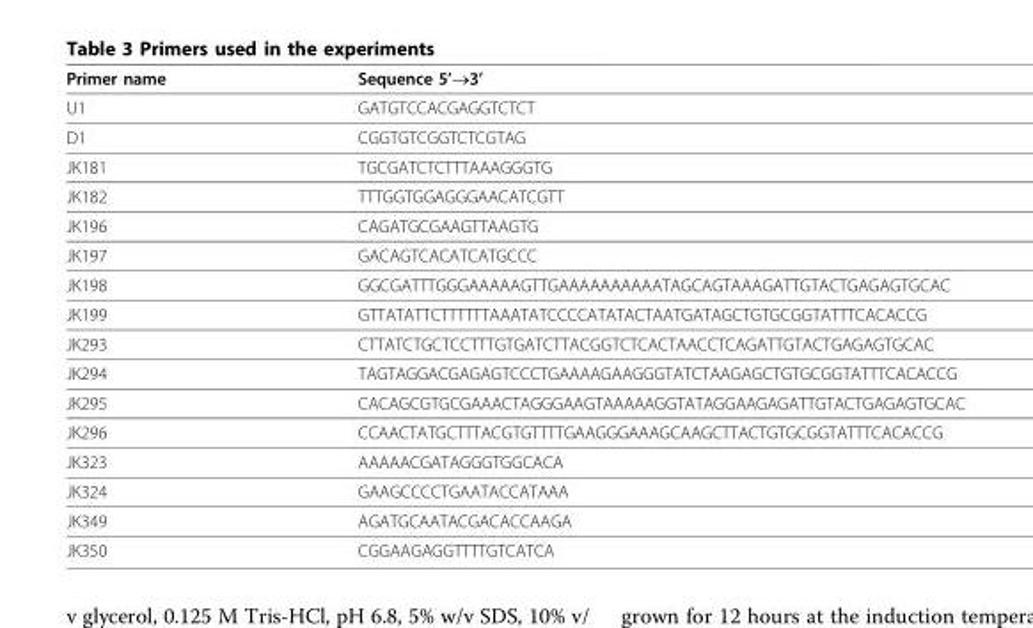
<table><thead><tr><td>Primer name</td><td>Sequence 5’→3’</td></tr></thead><tbody><tr><td>U1</td><td>GATGTCCACGAGGTCTCT</td></tr><tr><td>D1</td><td>CGGTGTCGGTCTCGTAG</td></tr><tr><td>JK181</td><td>TGCGATCTCTTTAAAGGGTG</td></tr><tr><td>JK182</td><td>TTTGGTGGAGGGAACATCGTT</td></tr><tr><td>JK196</td><td>CAGATGCGAAGTTAAGTG</td></tr><tr><td>JK197</td><td>GACAGTCACATCATGCCC</td></tr><tr><td>JK198</td><td>GGCGATTTGGGAAAAAGTTGAAAAAAAAAATAGCAGTAAAGATTGTACTGAGAGTGCAC</td></tr><tr><td>JK199</td><td>GTTATATTCTTTTTTAAATATCCCCATATACTAATGATAGCTGTGCGGTATTTCACACCG</td></tr><tr><td>JK293</td><td>CTTATCTGCTCCTTTGTGATCTTACGGTCTCACTAACCTCAGATTGTACTGAGAGTGCAC</td></tr><tr><td>JK294</td><td>TAGTAGGACGAGAGTCCCTGAAAAGAAGGGTATCTAAGAGCTGTGCGGTATTTCACACCG</td></tr><tr><td>JK295</td><td>CACAGCGTGCGAAACTAGGGAAGTAAAAAGGTATAGGAAGAGATTGTACTGAGAGTGCAC</td></tr><tr><td>JK296</td><td>CCAACTATGCTTTACGTGTTTTGAAGGGAAAGCAAGCTTACTGTGCGGTATTTCACACCG</td></tr><tr><td>JK323</td><td>AAAAACGATAGGGTGGCACA</td></tr><tr><td>JK324</td><td>GAAGCCCCTGAATACCATAAA</td></tr><tr><td>JK349</td><td>AGATGCAATACGACACCAAGA</td></tr><tr><td>JK350</td><td>CGGAAGAGGTTTTGTCATCA</td></tr></tbody></table>